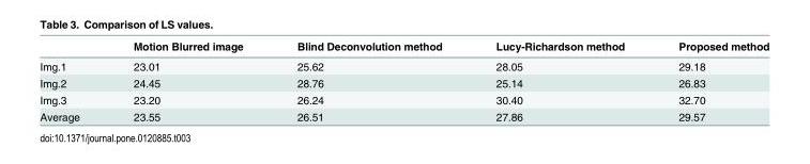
<table><thead><tr><td></td><td>Motion Blurred image</td><td>Blind Deconvolution method</td><td>Lucy-Richardson method</td><td>Proposed method</td></tr></thead><tbody><tr><td>Img.1</td><td>23.01</td><td>25.62</td><td>28.05</td><td>29.18</td></tr><tr><td>Img.2</td><td>24.45</td><td>28.76</td><td>25.14</td><td>26.83</td></tr><tr><td>Img.3</td><td>23.20</td><td>26.24</td><td>30.40</td><td>32.70</td></tr><tr><td>Average</td><td>23.55</td><td>26.51</td><td>27.86</td><td>29.57</td></tr></tbody></table>